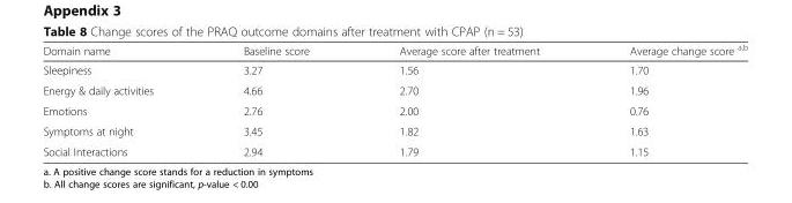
<table><thead><tr><td>Domain name</td><td>Baseline score</td><td>Average score after treatment</td><td>Average change score <sup>a,b</sup></td></tr></thead><tbody><tr><td>Sleepiness</td><td>3.27</td><td>1.56</td><td>1.70</td></tr><tr><td>Energy &amp; daily activities</td><td>4.66</td><td>2.70</td><td>1.96</td></tr><tr><td>Emotions</td><td>2.76</td><td>2.00</td><td>0.76</td></tr><tr><td>Symptoms at night</td><td>3.45</td><td>1.82</td><td>1.63</td></tr><tr><td>Social Interactions</td><td>2.94</td><td>1.79</td><td>1.15</td></tr></tbody></table>